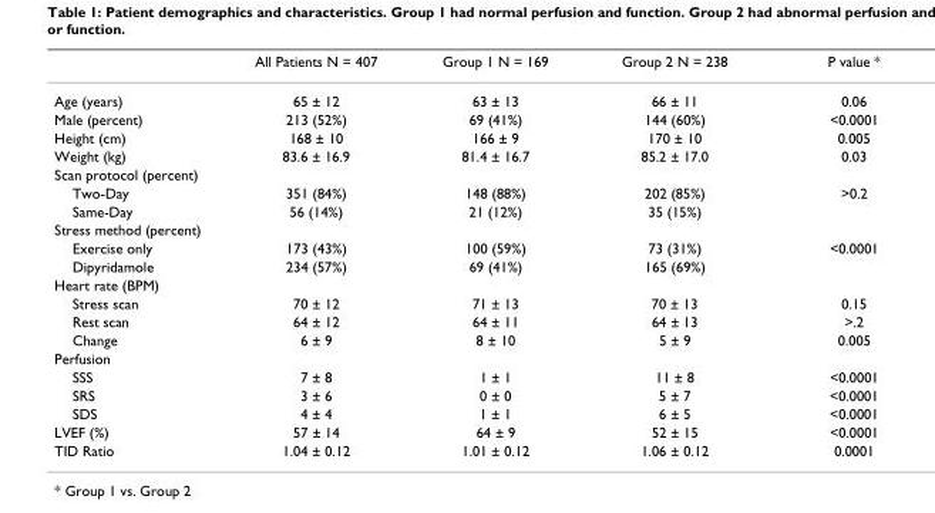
<table><thead><tr><td></td><td>All Patients N = 407</td><td>Group 1 N = 169</td><td>Group 2 N = 238</td><td>P value *</td></tr></thead><tbody><tr><td>Age (years)</td><td>65 ± 12</td><td>63 ± 13</td><td>66 ± 11</td><td>0.06</td></tr><tr><td>Male (percent)</td><td>213 (52%)</td><td>69 (41%)</td><td>144 (60%)</td><td>&lt;0.0001</td></tr><tr><td>Height (cm)</td><td>168 ± 10</td><td>166 ± 9</td><td>170 ± 10</td><td>0.005</td></tr><tr><td>Weight (kg)</td><td>83.6 ± 16.9</td><td>81.4 ± 16.7</td><td>85.2 ± 17.0</td><td>0.03</td></tr><tr><td colspan="5">Scan protocol (percent)</td></tr><tr><td>Two-Day</td><td>351 (84%)</td><td>148 (88%)</td><td>202 (85%)</td><td>&gt;0.2</td></tr><tr><td>Same-Day</td><td>56 (14%)</td><td>21 (12%)</td><td>35 (15%)</td><td></td></tr><tr><td colspan="5">Stress method (percent)</td></tr><tr><td>Exercise only</td><td>173 (43%)</td><td>100 (59%)</td><td>73 (31%)</td><td>&lt;0.0001</td></tr><tr><td>Dipyridamole</td><td>234 (57%)</td><td>69 (41%)</td><td>165 (69%)</td><td></td></tr><tr><td colspan="5">Heart rate (BPM)</td></tr><tr><td>Stress scan</td><td>70 ± 12</td><td>71 ± 13</td><td>70 ± 13</td><td>0.15</td></tr><tr><td>Rest scan</td><td>64 ± 12</td><td>64 ± 11</td><td>64 ± 13</td><td>&gt;.2</td></tr><tr><td>Change</td><td>6 ± 9</td><td>8 ± 10</td><td>5 ± 9</td><td>0.005</td></tr><tr><td colspan="5">Perfusion</td></tr><tr><td>SSS</td><td>7 ± 8</td><td>1 ± 1</td><td>11 ± 8</td><td>&lt;0.0001</td></tr><tr><td>SRS</td><td>3 ± 6</td><td>0 ± 0</td><td>5 ± 7</td><td>&lt;0.0001</td></tr><tr><td>SDS</td><td>4 ± 4</td><td>1 ± 1</td><td>6 ± 5</td><td>&lt;0.0001</td></tr><tr><td>LVEF (%)</td><td>57 ± 14</td><td>64 ± 9</td><td>52 ± 15</td><td>&lt;0.0001</td></tr><tr><td>TID Ratio</td><td>1.04 ± 0.12</td><td>1.01 ± 0.12</td><td>1.06 ± 0.12</td><td>0.0001</td></tr></tbody></table>